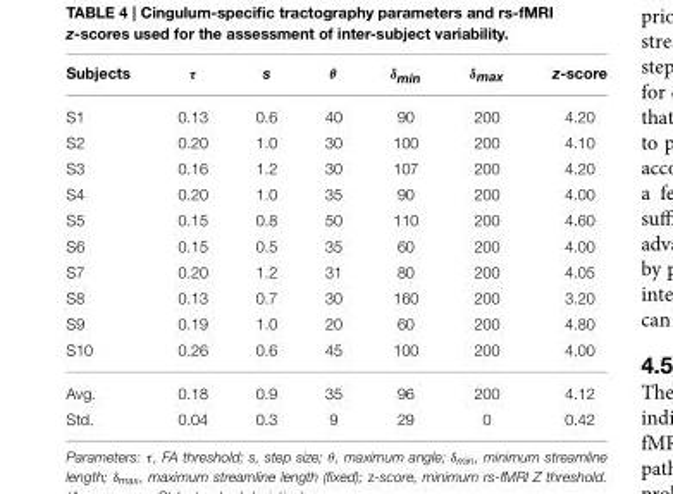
<table><thead><tr><td>Subjects</td><td>τ</td><td>s</td><td>θ</td><td>δ<sub>min</sub></td><td>δ<sub>max</sub></td><td>z-score</td></tr></thead><tbody><tr><td>S1</td><td>0.13</td><td>0.6</td><td>40</td><td>90</td><td>200</td><td>4.20</td></tr><tr><td>S2</td><td>0.20</td><td>1.0</td><td>30</td><td>100</td><td>200</td><td>4.10</td></tr><tr><td>S3</td><td>0.16</td><td>1.2</td><td>30</td><td>107</td><td>200</td><td>4.20</td></tr><tr><td>S4</td><td>0.20</td><td>1.0</td><td>35</td><td>90</td><td>200</td><td>4.00</td></tr><tr><td>S5</td><td>0.15</td><td>0.8</td><td>50</td><td>110</td><td>200</td><td>4.60</td></tr><tr><td>S6</td><td>0.15</td><td>0.5</td><td>35</td><td>60</td><td>200</td><td>4.00</td></tr><tr><td>S7</td><td>0.20</td><td>1.2</td><td>31</td><td>80</td><td>200</td><td>4.05</td></tr><tr><td>S8</td><td>0.13</td><td>0.7</td><td>30</td><td>160</td><td>200</td><td>3.20</td></tr><tr><td>S9</td><td>0.19</td><td>1.0</td><td>20</td><td>60</td><td>200</td><td>4.80</td></tr><tr><td>S10</td><td>0.26</td><td>0.6</td><td>45</td><td>100</td><td>200</td><td>4.00</td></tr><tr><td>Avg.</td><td>0.18</td><td>0.9</td><td>35</td><td>96</td><td>200</td><td>4.12</td></tr><tr><td>Std.</td><td>0.04</td><td>0.3</td><td>9</td><td>29</td><td>0</td><td>0.42</td></tr></tbody></table>